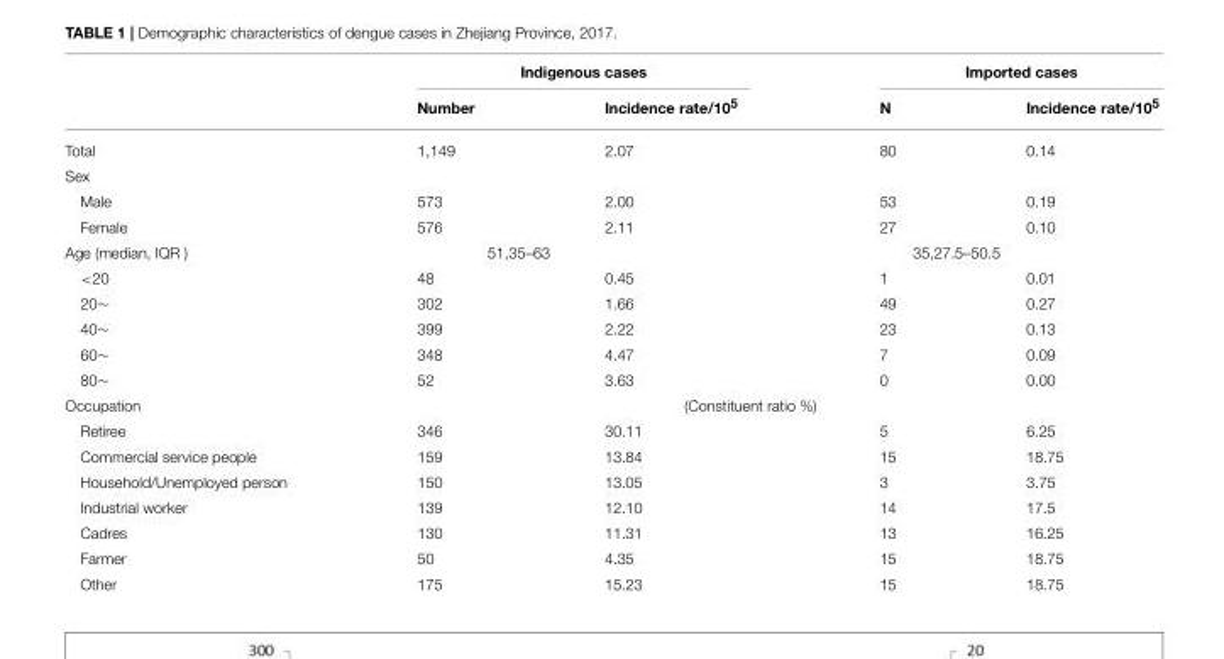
<table><thead><tr><td rowspan="2"></td><td colspan="2">Indigenous cases</td><td colspan="2">Imported cases</td></tr><tr><td>Number</td><td>Incidence rate/10<sup>5</sup></td><td>N</td><td>Incidence rate/10<sup>5</sup></td></tr></thead><tbody><tr><td>Total</td><td>1,149</td><td>2.07</td><td>80</td><td>0.14</td></tr><tr><td colspan="5">Sex</td></tr><tr><td>Male</td><td>573</td><td>2.00</td><td>53</td><td>0.19</td></tr><tr><td>Female</td><td>576</td><td>2.11</td><td>27</td><td>0.10</td></tr><tr><td>Age (median, IQR )</td><td colspan="2">51,35–63</td><td colspan="2">35,27.5–50.5</td></tr><tr><td>&lt;20</td><td>48</td><td>0.45</td><td>1</td><td>0.01</td></tr><tr><td>20∼</td><td>302</td><td>1.66</td><td>49</td><td>0.27</td></tr><tr><td>40∼</td><td>399</td><td>2.22</td><td>23</td><td>0.13</td></tr><tr><td>60∼</td><td>348</td><td>4.47</td><td>7</td><td>0.09</td></tr><tr><td>80∼</td><td>52</td><td>3.63</td><td>0</td><td>0.00</td></tr><tr><td>Occupation</td><td></td><td colspan="2">(Constituent ratio %)</td><td></td></tr><tr><td>Retiree</td><td>346</td><td>30.11</td><td>5</td><td>6.25</td></tr><tr><td>Commercial service people</td><td>159</td><td>13.84</td><td>15</td><td>18.75</td></tr><tr><td>Household/Unemployed person</td><td>150</td><td>13.05</td><td>3</td><td>3.75</td></tr><tr><td>Industrial worker</td><td>139</td><td>12.10</td><td>14</td><td>17.5</td></tr><tr><td>Cadres</td><td>130</td><td>11.31</td><td>13</td><td>16.25</td></tr><tr><td>Farmer</td><td>50</td><td>4.35</td><td>15</td><td>18.75</td></tr><tr><td>Other</td><td>175</td><td>15.23</td><td>15</td><td>18.75</td></tr></tbody></table>